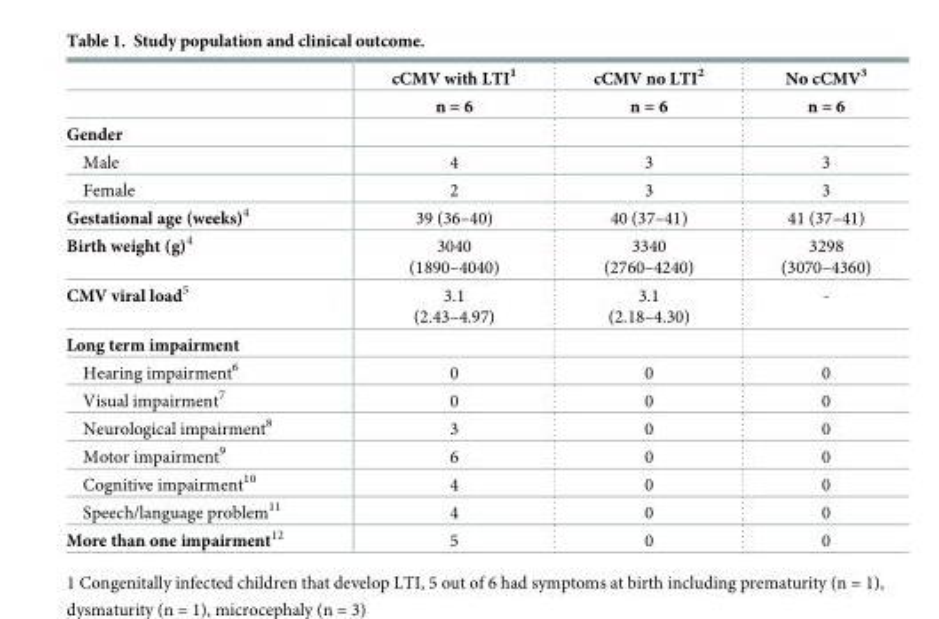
<table><thead><tr><td rowspan="2"></td><td rowspan="2">cCMV with LTI<sup>1</sup> n = 6</td><td rowspan="2">cCMV no LTI<sup>2</sup> n = 6</td><td rowspan="2">No cCMV<sup>3</sup> n = 6</td></tr><tr></tr></thead><tbody><tr><td colspan="4">Gender</td></tr><tr><td>Male</td><td>4</td><td>3</td><td>3</td></tr><tr><td>Female</td><td>2</td><td>3</td><td>3</td></tr><tr><td>Gestational age (weeks)<sup>4</sup></td><td>39 (36–40)</td><td>40 (37–41)</td><td>41 (37–41)</td></tr><tr><td>Birth weight (g)<sup>4</sup></td><td>3040 (1890–4040)</td><td>3340 (2760–4240)</td><td>3298 (3070–4360)</td></tr><tr><td>CMV viral load<sup>5</sup></td><td>3.1 (2.43–4.97)</td><td>3.1 (2.18–4.30)</td><td>-</td></tr><tr><td colspan="4">Long term impairment</td></tr><tr><td>Hearing impairment<sup>6</sup></td><td>0</td><td>0</td><td>0</td></tr><tr><td>Visual impairment<sup>7</sup></td><td>0</td><td>0</td><td>0</td></tr><tr><td>Neurological impairment<sup>8</sup></td><td>3</td><td>0</td><td>0</td></tr><tr><td>Motor impairment<sup>9</sup></td><td>6</td><td>0</td><td>0</td></tr><tr><td>Cognitive impairment<sup>10</sup></td><td>4</td><td>0</td><td>0</td></tr><tr><td>Speech/language problem<sup>11</sup></td><td>4</td><td>0</td><td>0</td></tr><tr><td>More than one impairment<sup>12</sup></td><td>5</td><td>0</td><td>0</td></tr></tbody></table>